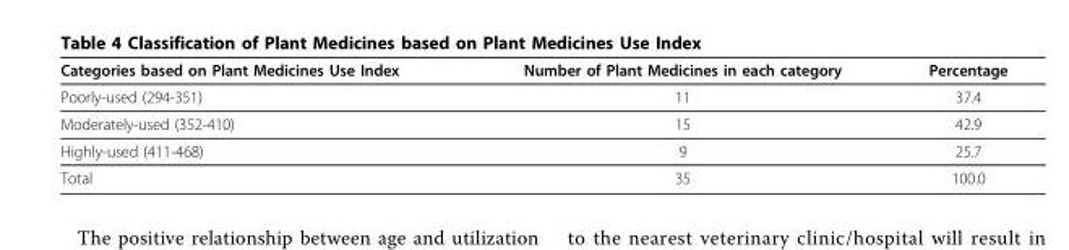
<table><thead><tr><td>Categories based on Plant Medicines Use Index</td><td>Number of Plant Medicines in each category</td><td>Percentage</td></tr></thead><tbody><tr><td>Poorly-used (294-351)</td><td>11</td><td>37.4</td></tr><tr><td>Moderately-used (352-410)</td><td>15</td><td>42.9</td></tr><tr><td>Highly-used (411-468)</td><td>9</td><td>25.7</td></tr><tr><td>Total</td><td>35</td><td>100.0</td></tr></tbody></table>